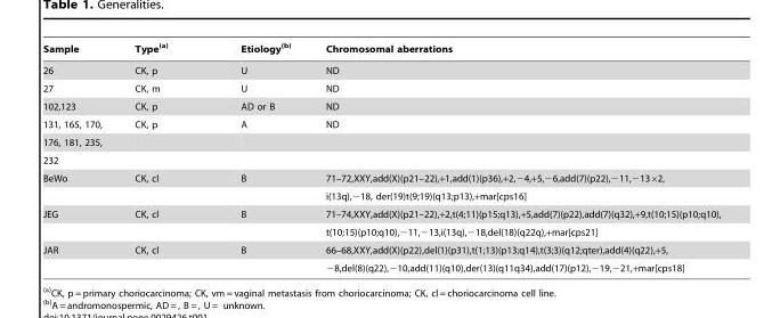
<table><thead><tr><td>Sample</td><td>Type(a)</td><td>Etiology(b)</td><td>Chromosomal aberrations</td></tr></thead><tbody><tr><td>26</td><td>CK, p</td><td>U</td><td>ND</td></tr><tr><td>27</td><td>CK, m</td><td>U</td><td>ND</td></tr><tr><td>102,123</td><td>CK, p</td><td>AD or B</td><td>ND</td></tr><tr><td>131, 165, 170,</td><td>CK, p</td><td>A</td><td>ND</td></tr><tr><td colspan="4">176, 181, 235,</td></tr><tr><td colspan="4">232</td></tr><tr><td rowspan="2">BeWo</td><td>CK, cl</td><td>B</td><td>71–72,XXY,add(X)(p21–22),+1,add(1)(p36),+2,−4,+5,−6,add(7)(p22),−11,−13×2,</td></tr><tr><td></td><td></td><td>i(13q),−18, der(19)t(9;19)(q13;p13),+mar[cps16]</td></tr><tr><td rowspan="2">JEG</td><td>CK, cl</td><td>B</td><td>71–74,XXY,add(X)(p21–22),+2,t(4;11)(p15;q13),+5,add(7)(p22),add(7)(q32),+9,t(10;15)(p10;q10),</td></tr><tr><td></td><td></td><td>t(10;15)(p10;q10),−11,−13,i(13q),−18,del(18)(q22q),+mar[cps21]</td></tr><tr><td rowspan="2">JAR</td><td>CK, cl</td><td>B</td><td>66–68,XXY,add(X)(p22),del(1)(p31),t(1;13)(p13;q14),t(3;3)(q12;qter),add(4)(q22),+5,</td></tr><tr><td></td><td></td><td>−8,del(8)(q22),−10,add(11)(q10),der(13)(q11q34),add(17)(p12),−19,−21,+mar[cps18]</td></tr></tbody></table>